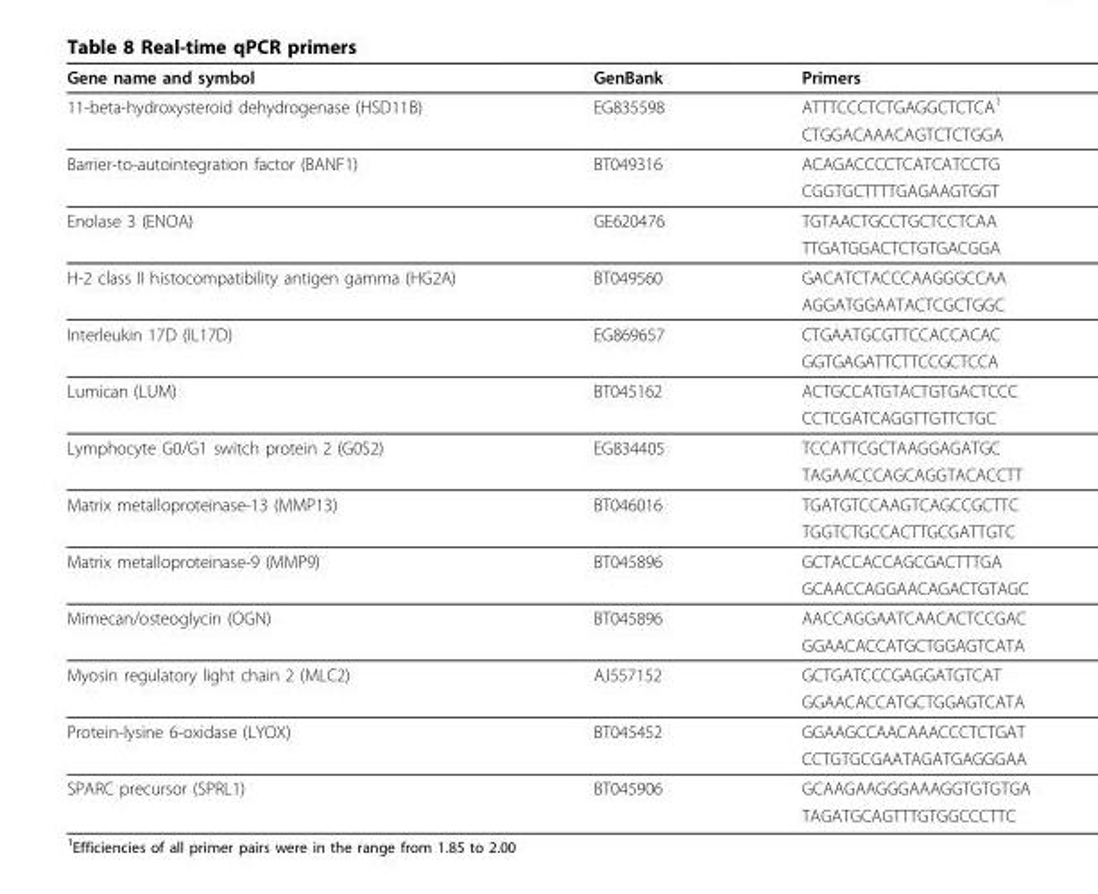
<table><thead><tr><td>Gene name and symbol</td><td>GenBank</td><td>Primers</td></tr></thead><tbody><tr><td rowspan="2">11-beta-hydroxysteroid dehydrogenase (HSD11B)</td><td>EG835598</td><td>ATTTCCCTCTGAGGCTCTCA<sup>1</sup></td></tr><tr><td></td><td>CTGGACAAACAGTCTCTGGA</td></tr><tr><td rowspan="2">Barrier-to-autointegration factor (BANF1)</td><td>BT049316</td><td>ACAGACCCCTCATCATCCTG</td></tr><tr><td></td><td>CGGTGCTTTTGAGAAGTGGT</td></tr><tr><td rowspan="2">Enolase 3 (ENOA)</td><td>GE620476</td><td>TGTAACTGCCTGCTCCTCAA</td></tr><tr><td></td><td>TTGATGGACTCTGTGACGGA</td></tr><tr><td rowspan="2">H-2 class II histocompatibility antigen gamma (HG2A)</td><td>BT049560</td><td>GACATCTACCCAAGGGCCAA</td></tr><tr><td></td><td>AGGATGGAATACTCGCTGGC</td></tr><tr><td rowspan="2">Interleukin 17D (IL17D)</td><td>EG869657</td><td>CTGAATGCGTTCCACCACAC</td></tr><tr><td></td><td>GGTGAGATTCTTCCGCTCCA</td></tr><tr><td rowspan="2">Lumican (LUM)</td><td>BT045162</td><td>ACTGCCATGTACTGTGACTCCC</td></tr><tr><td></td><td>CCTCGATCAGGTTGTTCTGC</td></tr><tr><td rowspan="2">Lymphocyte G0/G1 switch protein 2 (G0S2)</td><td>EG834405</td><td>TCCATTCGCTAAGGAGATGC</td></tr><tr><td></td><td>TAGAACCCAGCAGGTACACCTT</td></tr><tr><td rowspan="2">Matrix metalloproteinase-13 (MMP13)</td><td>BT046016</td><td>TGATGTCCAAGTCAGCCGCTTC</td></tr><tr><td></td><td>TGGTCTGCCACTTGCGATTGTC</td></tr><tr><td rowspan="2">Matrix metalloproteinase-9 (MMP9)</td><td>BT045896</td><td>GCTACCACCAGCGACTTTGA</td></tr><tr><td></td><td>GCAACCAGGAACAGACTGTAGC</td></tr><tr><td rowspan="2">Mimecan/osteoglycin (OGN)</td><td>BT045896</td><td>AACCAGGAATCAACACTCCGAC</td></tr><tr><td></td><td>GGAACACCATGCTGGAGTCATA</td></tr><tr><td rowspan="2">Myosin regulatory light chain 2 (MLC2)</td><td>AJ557152</td><td>GCTGATCCCGAGGATGTCAT</td></tr><tr><td></td><td>GGAACACCATGCTGGAGTCATA</td></tr><tr><td rowspan="2">Protein-lysine 6-oxidase (LYOX)</td><td>BT045452</td><td>GGAAGCCAACAAACCCTCTGAT</td></tr><tr><td></td><td>CCTGTGCGAATAGATGAGGGAA</td></tr><tr><td rowspan="2">SPARC precursor (SPRL1)</td><td>BT045906</td><td>GCAAGAAGGGAAAGGTGTGTGA</td></tr><tr><td></td><td>TAGATGCAGTTTGTGGCCCTTC</td></tr></tbody></table>